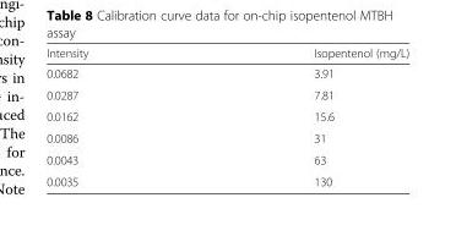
<table><thead><tr><td>Intensity</td><td>Isopentenol (mg/L)</td></tr></thead><tbody><tr><td>0.0682</td><td>3.91</td></tr><tr><td>0.0287</td><td>7.81</td></tr><tr><td>0.0162</td><td>15.6</td></tr><tr><td>0.0086</td><td>31</td></tr><tr><td>0.0043</td><td>63</td></tr><tr><td>0.0035</td><td>130</td></tr></tbody></table>